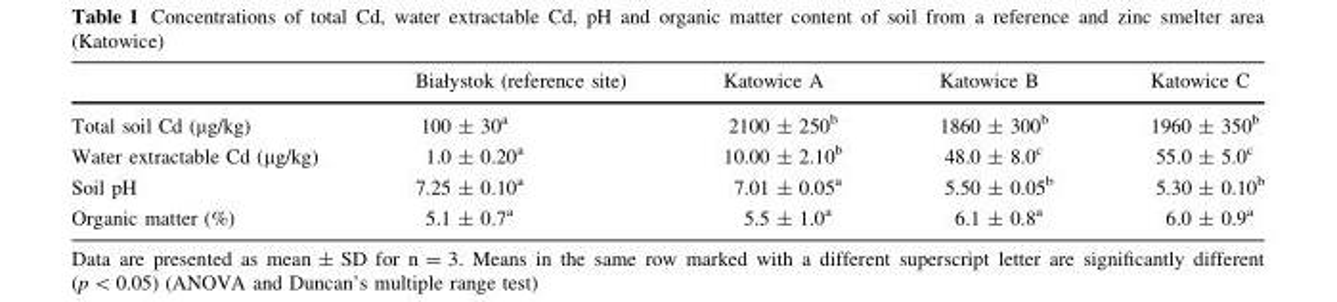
<table><thead><tr><td></td><td>Białystok (reference site)</td><td>Katowice A</td><td>Katowice B</td><td>Katowice C</td></tr></thead><tbody><tr><td>Total soil Cd (µg/kg)</td><td>100 ± 30<sup>a</sup></td><td>2100 ± 250<sup>b</sup></td><td>1860 ± 300<sup>b</sup></td><td>1960 ± 350<sup>b</sup></td></tr><tr><td>Water extractable Cd (µg/kg)</td><td>1.0 ± 0.20<sup>a</sup></td><td>10.00 ± 2.10<sup>b</sup></td><td>48.0 ± 8.0<sup>c</sup></td><td>55.0 ± 5.0<sup>c</sup></td></tr><tr><td>Soil pH</td><td>7.25 ± 0.10<sup>a</sup></td><td>7.01 ± 0.05<sup>a</sup></td><td>5.50 ± 0.05<sup>b</sup></td><td>5.30 ± 0.10<sup>b</sup></td></tr><tr><td>Organic matter (%)</td><td>5.1 ± 0.7<sup>a</sup></td><td>5.5 ± 1.0<sup>a</sup></td><td>6.1 ± 0.8<sup>a</sup></td><td>6.0 ± 0.9<sup>a</sup></td></tr></tbody></table>